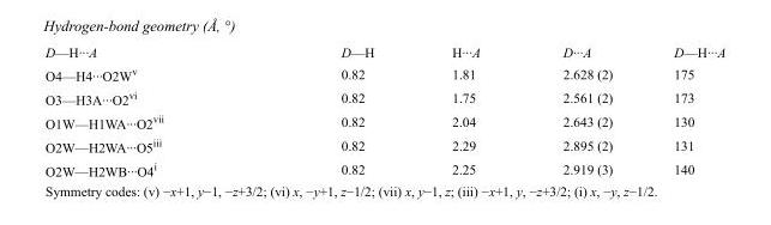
<table><tbody><tr><td>D—H···A</td><td>D—H</td><td>H···A</td><td>D···A</td><td>D—H···A</td></tr><tr><td>O4—H4···O2W<sup>v</sup></td><td>0.82</td><td>1.81</td><td>2.628 (2)</td><td>175</td></tr><tr><td>O3—H3A···O2<sup>vi</sup></td><td>0.82</td><td>1.75</td><td>2.561 (2)</td><td>173</td></tr><tr><td>O1W—H1WA···O2<sup>vii</sup></td><td>0.82</td><td>2.04</td><td>2.643 (2)</td><td>130</td></tr><tr><td>O2W—H2WA···O5<sup>iii</sup></td><td>0.82</td><td>2.29</td><td>2.895 (2)</td><td>131</td></tr><tr><td>O2W—H2WB···O4<sup>i</sup></td><td>0.82</td><td>2.25</td><td>2.919 (3)</td><td>140</td></tr></tbody></table>